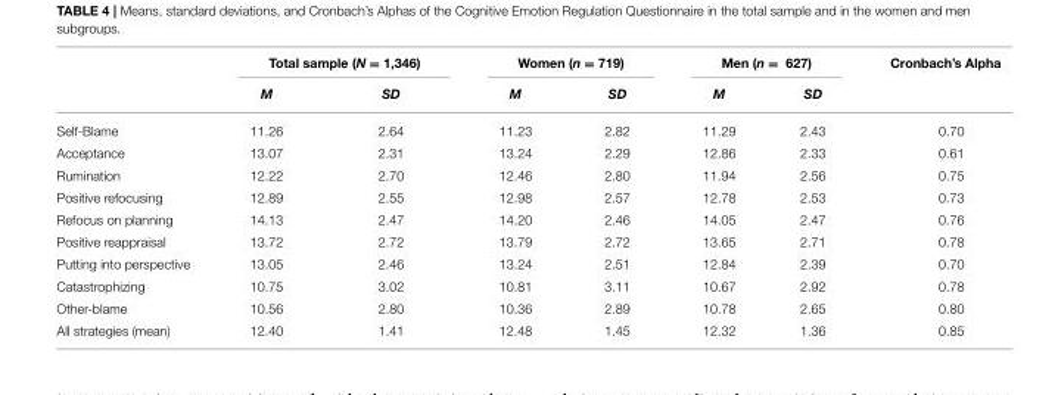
<table><thead><tr><td rowspan="2"></td><td colspan="2">Total sample (N = 1,346)</td><td colspan="2">Women (n = 719)</td><td colspan="2">Men (n = 627)</td><td rowspan="2">Cronbach’s Alpha</td></tr><tr><td>M</td><td>SD</td><td>M</td><td>SD</td><td>M</td><td>SD</td></tr></thead><tbody><tr><td>Self-Blame</td><td>11.26</td><td>2.64</td><td>11.23</td><td>2.82</td><td>11.29</td><td>2.43</td><td>0.70</td></tr><tr><td>Acceptance</td><td>13.07</td><td>2.31</td><td>13.24</td><td>2.29</td><td>12.86</td><td>2.33</td><td>0.61</td></tr><tr><td>Rumination</td><td>12.22</td><td>2.70</td><td>12.46</td><td>2.80</td><td>11.94</td><td>2.56</td><td>0.75</td></tr><tr><td>Positive refocusing</td><td>12.89</td><td>2.55</td><td>12.98</td><td>2.57</td><td>12.78</td><td>2.53</td><td>0.73</td></tr><tr><td>Refocus on planning</td><td>14.13</td><td>2.47</td><td>14.20</td><td>2.46</td><td>14.05</td><td>2.47</td><td>0.76</td></tr><tr><td>Positive reappraisal</td><td>13.72</td><td>2.72</td><td>13.79</td><td>2.72</td><td>13.65</td><td>2.71</td><td>0.78</td></tr><tr><td>Putting into perspective</td><td>13.05</td><td>2.46</td><td>13.24</td><td>2.51</td><td>12.84</td><td>2.39</td><td>0.70</td></tr><tr><td>Catastrophizing</td><td>10.75</td><td>3.02</td><td>10.81</td><td>3.11</td><td>10.67</td><td>2.92</td><td>0.78</td></tr><tr><td>Other-blame</td><td>10.56</td><td>2.80</td><td>10.36</td><td>2.89</td><td>10.78</td><td>2.65</td><td>0.80</td></tr><tr><td>All strategies (mean)</td><td>12.40</td><td>1.41</td><td>12.48</td><td>1.45</td><td>12.32</td><td>1.36</td><td>0.85</td></tr></tbody></table>